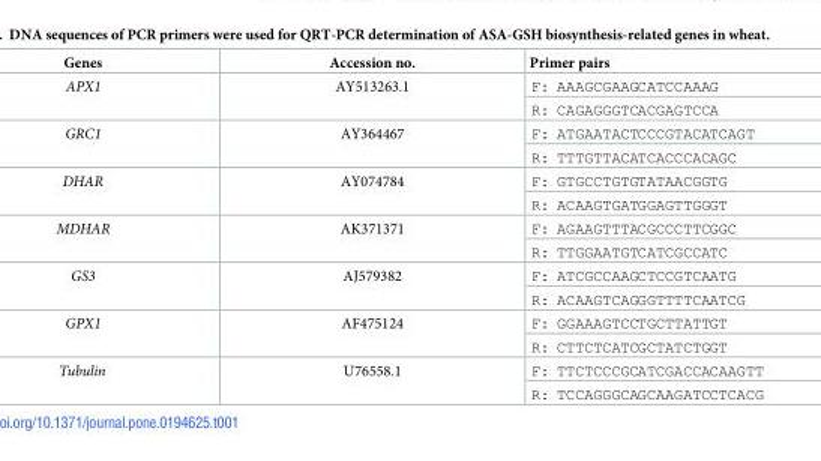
<table><thead><tr><td>Genes</td><td>Accession no.</td><td>Primer pairs</td></tr></thead><tbody><tr><td rowspan="2">APX1</td><td rowspan="2">AY513263.1</td><td>F: AAAGCGAAGCATCCAAAG</td></tr><tr><td>R: CAGAGGGTCACGAGTCCA</td></tr><tr><td rowspan="2">GRC1</td><td rowspan="2">AY364467</td><td>F: ATGAATACTCCCGTACATCAGT</td></tr><tr><td>R: TTTGTTACATCACCCACAGC</td></tr><tr><td rowspan="2">DHAR</td><td rowspan="2">AY074784</td><td>F: GTGCCTGTGTATAACGGTG</td></tr><tr><td>R: ACAAGTGATGGAGTTGGGT</td></tr><tr><td rowspan="2">MDHAR</td><td rowspan="2">AK371371</td><td>F: AGAAGTTTACGCCCTTCGGC</td></tr><tr><td>R: TTGGAATGTCATCGCCATC</td></tr><tr><td rowspan="2">GS3</td><td rowspan="2">AJ579382</td><td>F: ATCGCCAAGCTCCGTCAATG</td></tr><tr><td>R: ACAAGTCAGGGTTTTCAATCG</td></tr><tr><td rowspan="2">GPX1</td><td rowspan="2">AF475124</td><td>F: GGAAAGTCCTGCTTATTGT</td></tr><tr><td>R: CTTCTCATCGCTATCTGGT</td></tr><tr><td rowspan="2">Tubulin</td><td rowspan="2">U76558.1</td><td>F: TTCTCCCGCATCGACCACAAGTT</td></tr><tr><td>R: TCCAGGGCAGCAAGATCCTCACG</td></tr></tbody></table>